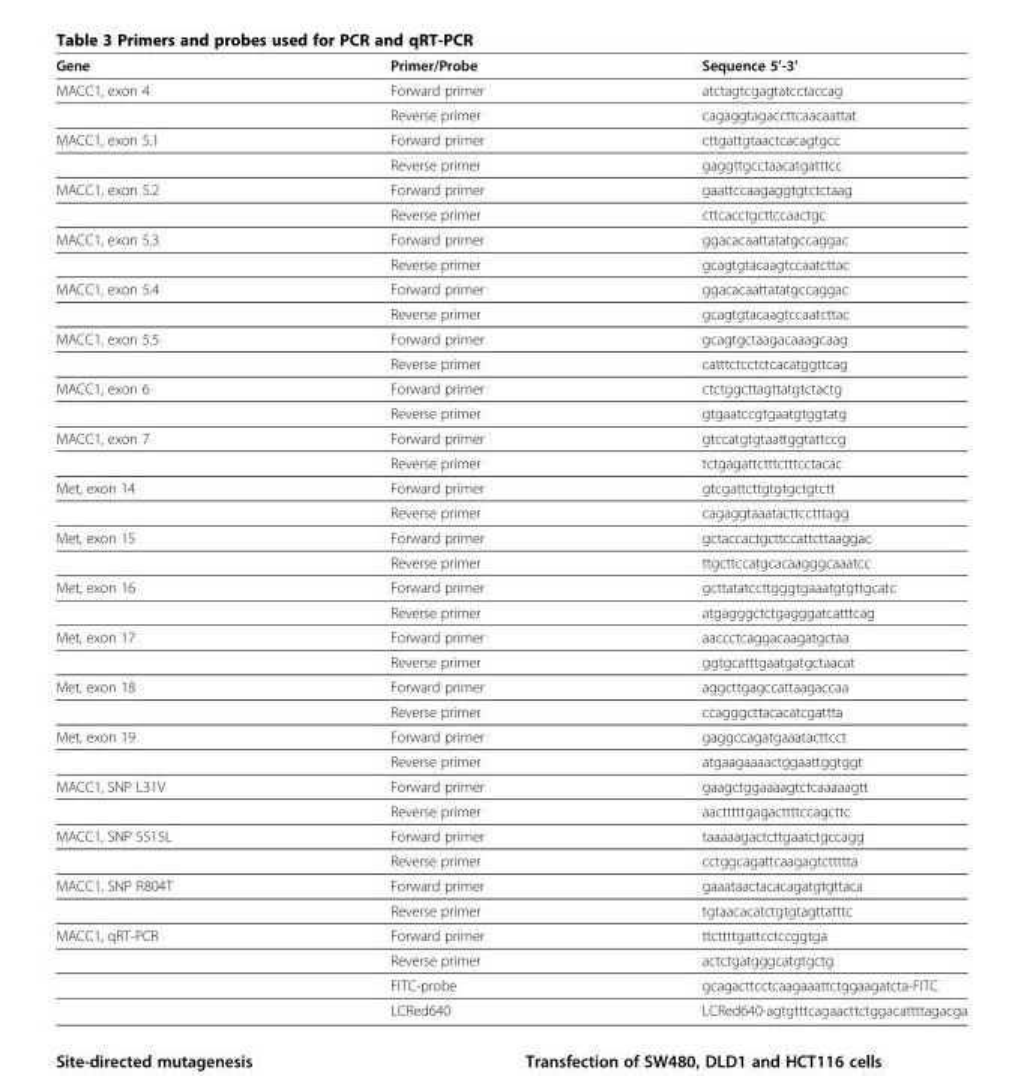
<table><thead><tr><td>Gene</td><td>Primer/Probe</td><td>Sequence 5’-3’</td></tr></thead><tbody><tr><td rowspan="2">MACC1, exon 4</td><td>Forward primer</td><td>atctagtcgagtatcctaccag</td></tr><tr><td>Reverse primer</td><td>cagaggtagaccttcaacaattat</td></tr><tr><td rowspan="2">MACC1, exon 5.1</td><td>Forward primer</td><td>cttgattgtaactcacagtgcc</td></tr><tr><td>Reverse primer</td><td>gaggttgcctaacatgatttcc</td></tr><tr><td rowspan="2">MACC1, exon 5.2</td><td>Forward primer</td><td>gaattccaagaggtgtctctaag</td></tr><tr><td>Reverse primer</td><td>cttcacctgcttccaactgc</td></tr><tr><td rowspan="2">MACC1, exon 5.3</td><td>Forward primer</td><td>ggacacaattatatgccaggac</td></tr><tr><td>Reverse primer</td><td>gcagtgtacaagtccaatcttac</td></tr><tr><td rowspan="2">MACC1, exon 5.4</td><td>Forward primer</td><td>ggacacaattatatgccaggac</td></tr><tr><td>Reverse primer</td><td>gcagtgtacaagtccaatcttac</td></tr><tr><td rowspan="2">MACC1, exon 5.5</td><td>Forward primer</td><td>gcagtgctaagacaaagcaag</td></tr><tr><td>Reverse primer</td><td>catttctcctctcacatggttcag</td></tr><tr><td rowspan="2">MACC1, exon 6</td><td>Forward primer</td><td>ctctggcttagttatgtctactg</td></tr><tr><td>Reverse primer</td><td>gtgaatccgtgaatgtggtatg</td></tr><tr><td rowspan="2">MACC1, exon 7</td><td>Forward primer</td><td>gtccatgtgtaattggtattccg</td></tr><tr><td>Reverse primer</td><td>tctgagattctttctttcctacac</td></tr><tr><td rowspan="2">Met, exon 14</td><td>Forward primer</td><td>gtcgattcttgtgtgctgtctt</td></tr><tr><td>Reverse primer</td><td>cagaggtaaatacttcctttagg</td></tr><tr><td rowspan="2">Met, exon 15</td><td>Forward primer</td><td>gctaccactgcttccattcttaaggac</td></tr><tr><td>Reverse primer</td><td>ttgcttccatgcacaagggcaaatcc</td></tr><tr><td rowspan="2">Met, exon 16</td><td>Forward primer</td><td>gcttatatccttgggtgaaatgtgttgcatc</td></tr><tr><td>Reverse primer</td><td>atgagggctctgagggatcatttcag</td></tr><tr><td rowspan="2">Met, exon 17</td><td>Forward primer</td><td>aaccctcaggacaagatgctaa</td></tr><tr><td>Reverse primer</td><td>ggtgcatttgaatgatgctaacat</td></tr><tr><td rowspan="2">Met, exon 18</td><td>Forward primer</td><td>aggcttgagccattaagaccaa</td></tr><tr><td>Reverse primer</td><td>ccagggcttacacatcgattta</td></tr><tr><td rowspan="2">Met, exon 19</td><td>Forward primer</td><td>gaggccagatgaaatacttcct</td></tr><tr><td>Reverse primer</td><td>atgaagaaaactggaattggtggt</td></tr><tr><td rowspan="2">MACC1, SNP L31V</td><td>Forward primer</td><td>gaagctggaaaagtctcaaaaagtt</td></tr><tr><td>Reverse primer</td><td>aactttttgagacttttccagcttc</td></tr><tr><td rowspan="2">MACC1, SNP S515L</td><td>Forward primer</td><td>taaaaagactcttgaatctgccagg</td></tr><tr><td>Reverse primer</td><td>cctggcagattcaagagtcttttta</td></tr><tr><td rowspan="2">MACC1, SNP R804T</td><td>Forward primer</td><td>gaaataactacacagatgtgttaca</td></tr><tr><td>Reverse primer</td><td>tgtaacacatctgtgtagttatttc</td></tr><tr><td rowspan="4">MACC1, qRT-PCR</td><td>Forward primer</td><td>ttcttttgattcctccggtga</td></tr><tr><td>Reverse primer</td><td>actctgatgggcatgtgctg</td></tr><tr><td>FITC-probe</td><td>gcagacttcctcaagaaattctggaagatcta-FITC</td></tr><tr><td>LCRed640</td><td>LCRed640-agtgtttcagaacttctggacattttagacga</td></tr></tbody></table>